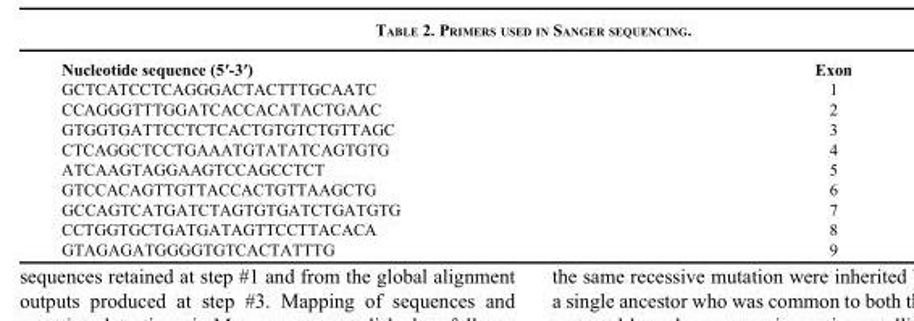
<table><thead><tr><td>Nucleotide sequence (5′-3′)</td><td>Exon</td></tr></thead><tbody><tr><td>GCTCATCCTCAGGGACTACTTTGCAATC</td><td>1</td></tr><tr><td>CCAGGGTTTGGATCACCACATACTGAAC</td><td>2</td></tr><tr><td>GTGGTGATTCCTCTCACTGTGTCTGTTAGC</td><td>3</td></tr><tr><td>CTCAGGCTCCTGAAATGTATATCAGTGTG</td><td>4</td></tr><tr><td>ATCAAGTAGGAAGTCCAGCCTCT</td><td>5</td></tr><tr><td>GTCCACAGTTGTTACCACTGTTAAGCTG</td><td>6</td></tr><tr><td>GCCAGTCATGATCTAGTGTGATCTGATGTG</td><td>7</td></tr><tr><td>CCTGGTGCTGATGATAGTTCCTTACACA</td><td>8</td></tr><tr><td>GTAGAGATGGGGTGTCACTATTTG</td><td>9</td></tr></tbody></table>